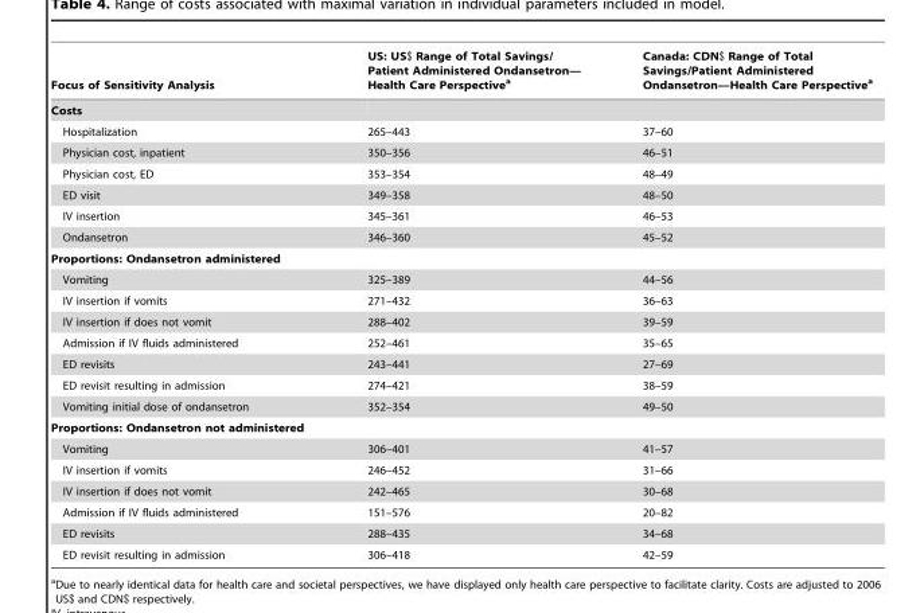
<table><thead><tr><td>Focus of Sensitivity Analysis</td><td>US: US$ Range of Total Savings/ Patient Administered Ondansetron— Health Care Perspective<sup>a</sup></td><td>Canada: CDN$ Range of Total Savings/Patient Administered Ondansetron—Health Care Perspective<sup>a</sup></td></tr></thead><tbody><tr><td colspan="3">Costs</td></tr><tr><td>Hospitalization</td><td>265–443</td><td>37–60</td></tr><tr><td>Physician cost, inpatient</td><td>350–356</td><td>46–51</td></tr><tr><td>Physician cost, ED</td><td>353–354</td><td>48–49</td></tr><tr><td>ED visit</td><td>349–358</td><td>48–50</td></tr><tr><td>IV insertion</td><td>345–361</td><td>46–53</td></tr><tr><td>Ondansetron</td><td>346–360</td><td>45–52</td></tr><tr><td colspan="3">Proportions: Ondansetron administered</td></tr><tr><td>Vomiting</td><td>325–389</td><td>44–56</td></tr><tr><td>IV insertion if vomits</td><td>271–432</td><td>36–63</td></tr><tr><td>IV insertion if does not vomit</td><td>288–402</td><td>39–59</td></tr><tr><td>Admission if IV fluids administered</td><td>252–461</td><td>35–65</td></tr><tr><td>ED revisits</td><td>243–441</td><td>27–69</td></tr><tr><td>ED revisit resulting in admission</td><td>274–421</td><td>38–59</td></tr><tr><td>Vomiting initial dose of ondansetron</td><td>352–354</td><td>49–50</td></tr><tr><td colspan="3">Proportions: Ondansetron not administered</td></tr><tr><td>Vomiting</td><td>306–401</td><td>41–57</td></tr><tr><td>IV insertion if vomits</td><td>246–452</td><td>31–66</td></tr><tr><td>IV insertion if does not vomit</td><td>242–465</td><td>30–68</td></tr><tr><td>Admission if IV fluids administered</td><td>151–576</td><td>20–82</td></tr><tr><td>ED revisits</td><td>288–435</td><td>34–68</td></tr><tr><td>ED revisit resulting in admission</td><td>306–418</td><td>42–59</td></tr></tbody></table>